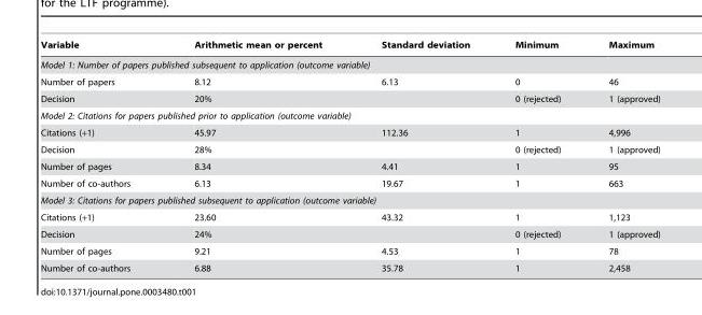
<table><thead><tr><td>Variable</td><td>Arithmetic mean or percent</td><td>Standard deviation</td><td>Minimum</td><td>Maximum</td></tr></thead><tbody><tr><td colspan="5">Model 1: Number of papers published subsequent to application (outcome variable)</td></tr><tr><td>Number of papers</td><td>8.12</td><td>6.13</td><td>0</td><td>46</td></tr><tr><td>Decision</td><td>20%</td><td></td><td>0 (rejected)</td><td>1 (approved)</td></tr><tr><td colspan="5">Model 2: Citations for papers published prior to application (outcome variable)</td></tr><tr><td>Citations (+1)</td><td>45.97</td><td>112.36</td><td>1</td><td>4,996</td></tr><tr><td>Decision</td><td>28%</td><td></td><td>0 (rejected)</td><td>1 (approved)</td></tr><tr><td>Number of pages</td><td>8.34</td><td>4.41</td><td>1</td><td>95</td></tr><tr><td>Number of co-authors</td><td>6.13</td><td>19.67</td><td>1</td><td>663</td></tr><tr><td colspan="5">Model 3: Citations for papers published subsequent to application (outcome variable)</td></tr><tr><td>Citations (+1)</td><td>23.60</td><td>43.32</td><td>1</td><td>1,123</td></tr><tr><td>Decision</td><td>24%</td><td></td><td>0 (rejected)</td><td>1 (approved)</td></tr><tr><td>Number of pages</td><td>9.21</td><td>4.53</td><td>1</td><td>78</td></tr><tr><td>Number of co-authors</td><td>6.88</td><td>35.78</td><td>1</td><td>2,458</td></tr></tbody></table>